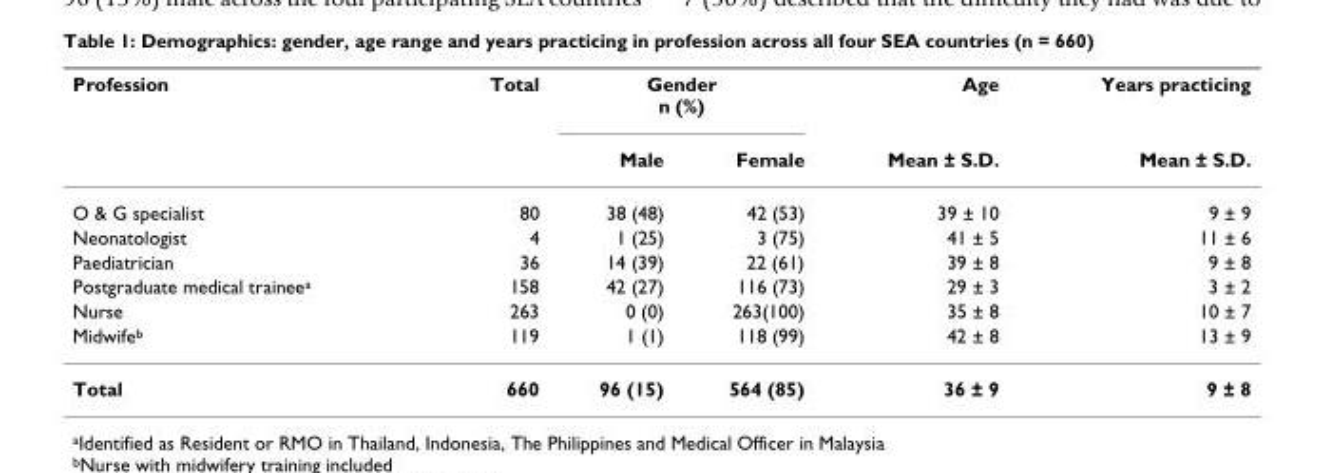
<table><thead><tr><td rowspan="2">Profession</td><td rowspan="2">Total</td><td colspan="2">Gender n (%)</td><td rowspan="2">Age Mean ± S.D.</td><td rowspan="2">Years practicing Mean ± S.D.</td></tr><tr><td>Male</td><td>Female</td></tr></thead><tbody><tr><td>O &amp; G specialist</td><td>80</td><td>38 (48)</td><td>42 (53)</td><td>39 ± 10</td><td>9 ± 9</td></tr><tr><td>Neonatologist</td><td>4</td><td>1 (25)</td><td>3 (75)</td><td>41 ± 5</td><td>11 ± 6</td></tr><tr><td>Paediatrician</td><td>36</td><td>14 (39)</td><td>22 (61)</td><td>39 ± 8</td><td>9 ± 8</td></tr><tr><td>Postgraduate medical trainee<sup>a</sup></td><td>158</td><td>42 (27)</td><td>116 (73)</td><td>29 ± 3</td><td>3 ± 2</td></tr><tr><td>Nurse</td><td>263</td><td>0 (0)</td><td>263(100)</td><td>35 ± 8</td><td>10 ± 7</td></tr><tr><td>Midwife<sup>b</sup></td><td>119</td><td>1 (1)</td><td>118 (99)</td><td>42 ± 8</td><td>13 ± 9</td></tr><tr><td>Total</td><td>660</td><td>96 (15)</td><td>564 (85)</td><td>36 ± 9</td><td>9 ± 8</td></tr></tbody></table>